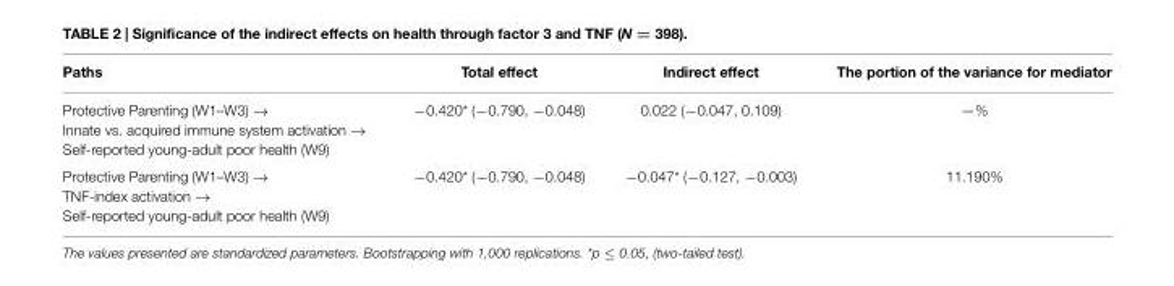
<table><thead><tr><td>Paths</td><td>Total effect</td><td>Indirect effect</td><td>The portion of the variance for mediator</td></tr></thead><tbody><tr><td>Protective Parenting (W1–W3) → Innate vs. acquired immune system activation → Self-reported young-adult poor health (W9)</td><td>−0.420* (−0.790, −0.048)</td><td>0.022 (−0.047, 0.109)</td><td>—%</td></tr><tr><td>Protective Parenting (W1–W3) → TNF-index activation → Self-reported young-adult poor health (W9)</td><td>−0.420* (−0.790, −0.048)</td><td>−0.047* (−0.127, −0.003)</td><td>11.190%</td></tr></tbody></table>